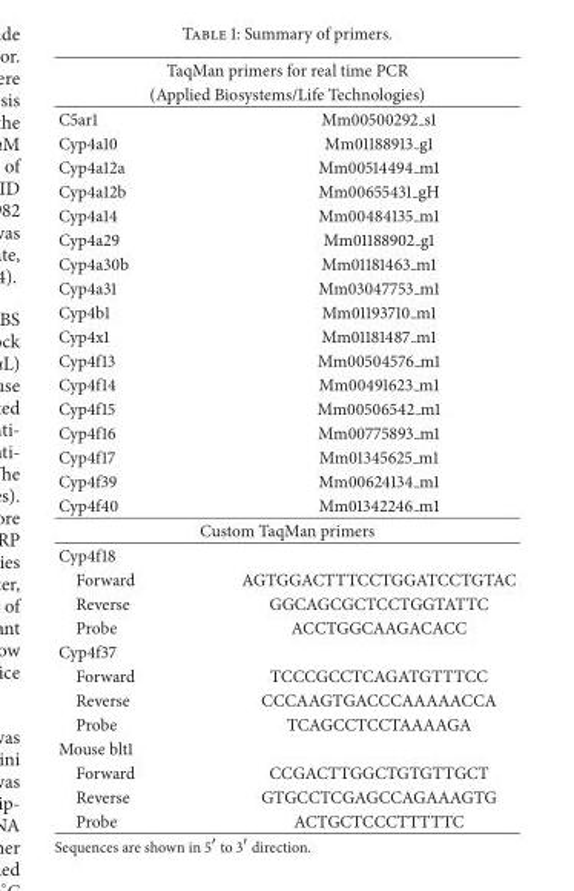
<table><thead><tr><td rowspan="2" colspan="2">TaqMan primers for real time PCR (Applied Biosystems/Life Technologies)</td></tr><tr></tr><tr><td>C5ar1</td><td>Mm00500292 s1</td></tr></thead><tbody><tr><td>Cyp4a10</td><td>Mm01188913 g1</td></tr><tr><td>Cyp4a12a</td><td>Mm00514494 m1</td></tr><tr><td>Cyp4a12b</td><td>Mm00655431 gH</td></tr><tr><td>Cyp4a14</td><td>Mm00484135 m1</td></tr><tr><td>Cyp4a29</td><td>Mm01188902 g1</td></tr><tr><td>Cyp4a30b</td><td>Mm01181463 m1</td></tr><tr><td>Cyp4a31</td><td>Mm03047753 m1</td></tr><tr><td>Cyp4b1</td><td>Mm01193710 m1</td></tr><tr><td>Cyp4x1</td><td>Mm01181487 m1</td></tr><tr><td>Cyp4f13</td><td>Mm00504576 m1</td></tr><tr><td>Cyp4f14</td><td>Mm00491623 m1</td></tr><tr><td>Cyp4f15</td><td>Mm00506542 m1</td></tr><tr><td>Cyp4f16</td><td>Mm00775893 m1</td></tr><tr><td>Cyp4f17</td><td>Mm01345625 m1</td></tr><tr><td>Cyp4f39</td><td>Mm00624134 m1</td></tr><tr><td>Cyp4f40</td><td>Mm01342246 m1</td></tr><tr><td colspan="2">Custom TaqMan primers</td></tr><tr><td colspan="2">Cyp4f18</td></tr><tr><td>Forward</td><td>AGTGGACTTTCCTGGATCCTGTAC</td></tr><tr><td>Reverse</td><td>GGCAGCGCTCCTGGTATTC</td></tr><tr><td>Probe</td><td>ACCTGGCAAGACACC</td></tr><tr><td colspan="2">Cyp4f37</td></tr><tr><td>Forward</td><td>TCCCGCCTCAGATGTTTCC</td></tr><tr><td>Reverse</td><td>CCCAAGTGACCCAAAAACCA</td></tr><tr><td>Probe</td><td>TCAGCCTCCTAAAAGA</td></tr><tr><td colspan="2">Mouse blt1</td></tr><tr><td>Forward</td><td>CCGACTTGGCTGTGTTGCT</td></tr><tr><td>Reverse</td><td>GTGCCTCGAGCCAGAAAGTG</td></tr><tr><td>Probe</td><td>ACTGCTCCCTTTTTC</td></tr></tbody></table>